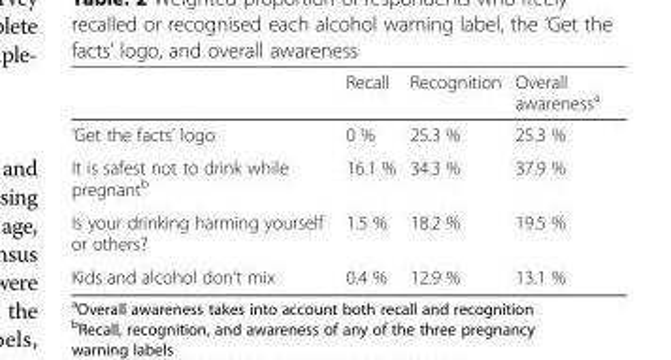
<table><thead><tr><td></td><td>Recall</td><td>Recognition</td><td>Overall awareness<sup>a</sup></td></tr></thead><tbody><tr><td>‘Get the facts’ logo</td><td>0 %</td><td>25.3 %</td><td>25.3 %</td></tr><tr><td>It is safest not to drink while pregnant<sup>b</sup></td><td>16.1 %</td><td>34.3 %</td><td>37.9 %</td></tr><tr><td>Is your drinking harming yourself or others?</td><td>1.5 %</td><td>18.2 %</td><td>19.5 %</td></tr><tr><td>Kids and alcohol don’t mix</td><td>0.4 %</td><td>12.9 %</td><td>13.1 %</td></tr></tbody></table>